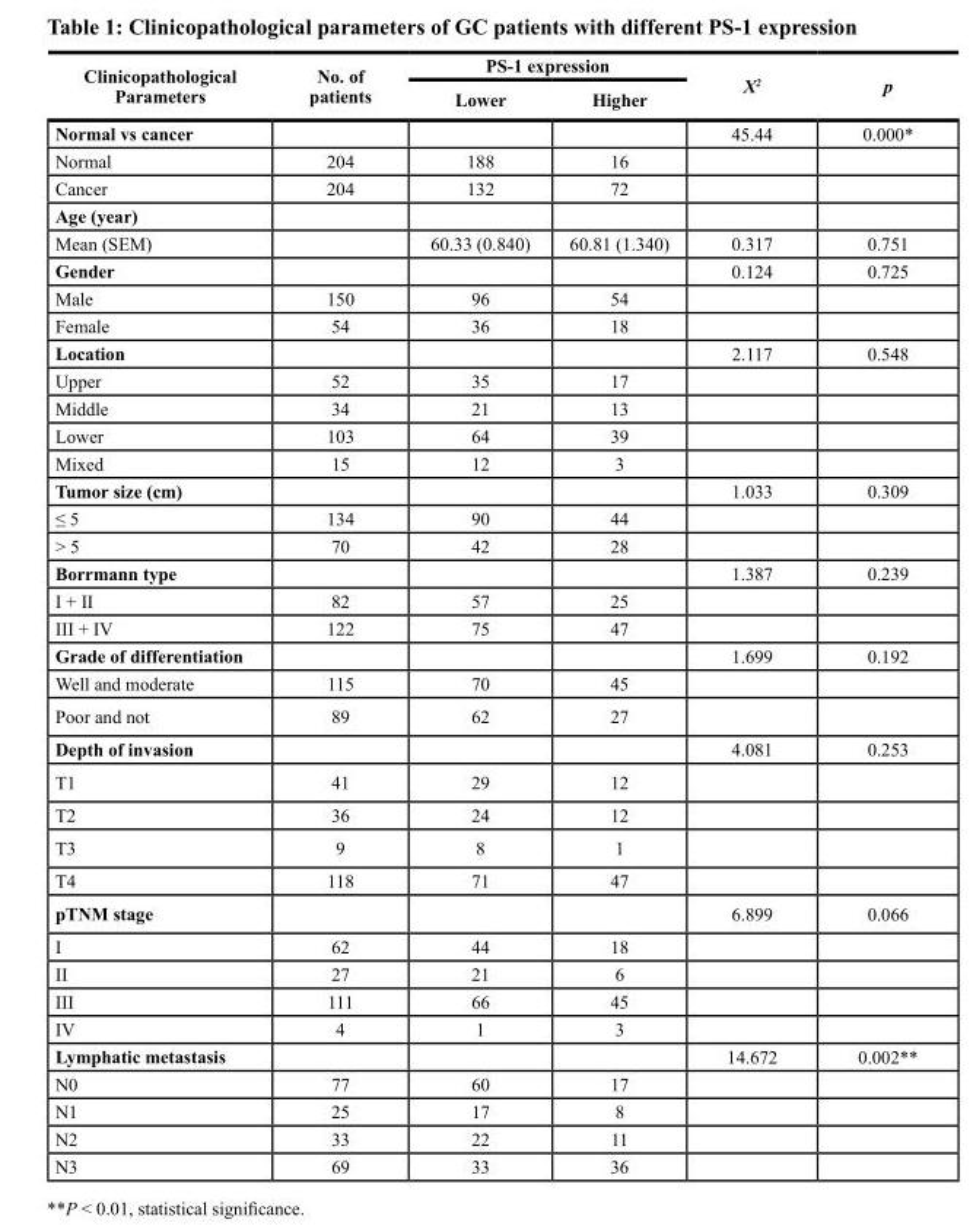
<table><thead><tr><td rowspan="2">Clinicopathological Parameters</td><td rowspan="2">No. of patients</td><td colspan="2">PS-1 expression</td><td rowspan="2">X<sup>2</sup></td><td rowspan="2">p</td></tr><tr><td>Lower</td><td>Higher</td></tr></thead><tbody><tr><td>Normal vs cancer</td><td></td><td></td><td></td><td>45.44</td><td>0.000*</td></tr><tr><td>Normal</td><td>204</td><td>188</td><td>16</td><td></td><td></td></tr><tr><td>Cancer</td><td>204</td><td>132</td><td>72</td><td></td><td></td></tr><tr><td colspan="6">Age (year)</td></tr><tr><td>Mean (SEM)</td><td></td><td>60.33 (0.840)</td><td>60.81 (1.340)</td><td>0.317</td><td>0.751</td></tr><tr><td>Gender</td><td></td><td></td><td></td><td>0.124</td><td>0.725</td></tr><tr><td>Male</td><td>150</td><td>96</td><td>54</td><td></td><td></td></tr><tr><td>Female</td><td>54</td><td>36</td><td>18</td><td></td><td></td></tr><tr><td>Location</td><td></td><td></td><td></td><td>2.117</td><td>0.548</td></tr><tr><td>Upper</td><td>52</td><td>35</td><td>17</td><td></td><td></td></tr><tr><td>Middle</td><td>34</td><td>21</td><td>13</td><td></td><td></td></tr><tr><td>Lower</td><td>103</td><td>64</td><td>39</td><td></td><td></td></tr><tr><td>Mixed</td><td>15</td><td>12</td><td>3</td><td></td><td></td></tr><tr><td>Tumor size (cm)</td><td></td><td></td><td></td><td>1.033</td><td>0.309</td></tr><tr><td>≤ 5</td><td>134</td><td>90</td><td>44</td><td></td><td></td></tr><tr><td>&gt; 5</td><td>70</td><td>42</td><td>28</td><td></td><td></td></tr><tr><td>Borrmann type</td><td></td><td></td><td></td><td>1.387</td><td>0.239</td></tr><tr><td>I + II</td><td>82</td><td>57</td><td>25</td><td></td><td></td></tr><tr><td>III + IV</td><td>122</td><td>75</td><td>47</td><td></td><td></td></tr><tr><td>Grade of differentiation</td><td></td><td></td><td></td><td>1.699</td><td>0.192</td></tr><tr><td>Well and moderate</td><td>115</td><td>70</td><td>45</td><td></td><td></td></tr><tr><td>Poor and not</td><td>89</td><td>62</td><td>27</td><td></td><td></td></tr><tr><td>Depth of invasion</td><td></td><td></td><td></td><td>4.081</td><td>0.253</td></tr><tr><td>T1</td><td>41</td><td>29</td><td>12</td><td></td><td></td></tr><tr><td>T2</td><td>36</td><td>24</td><td>12</td><td></td><td></td></tr><tr><td>T3</td><td>9</td><td>8</td><td>1</td><td></td><td></td></tr><tr><td>T4</td><td>118</td><td>71</td><td>47</td><td></td><td></td></tr><tr><td>pTNM stage</td><td></td><td></td><td></td><td>6.899</td><td>0.066</td></tr><tr><td>I</td><td>62</td><td>44</td><td>18</td><td></td><td></td></tr><tr><td>II</td><td>27</td><td>21</td><td>6</td><td></td><td></td></tr><tr><td>III</td><td>111</td><td>66</td><td>45</td><td></td><td></td></tr><tr><td>IV</td><td>4</td><td>1</td><td>3</td><td></td><td></td></tr><tr><td>Lymphatic metastasis</td><td></td><td></td><td></td><td>14.672</td><td>0.002**</td></tr><tr><td>N0</td><td>77</td><td>60</td><td>17</td><td></td><td></td></tr><tr><td>N1</td><td>25</td><td>17</td><td>8</td><td></td><td></td></tr><tr><td>N2</td><td>33</td><td>22</td><td>11</td><td></td><td></td></tr><tr><td>N3</td><td>69</td><td>33</td><td>36</td><td></td><td></td></tr></tbody></table>